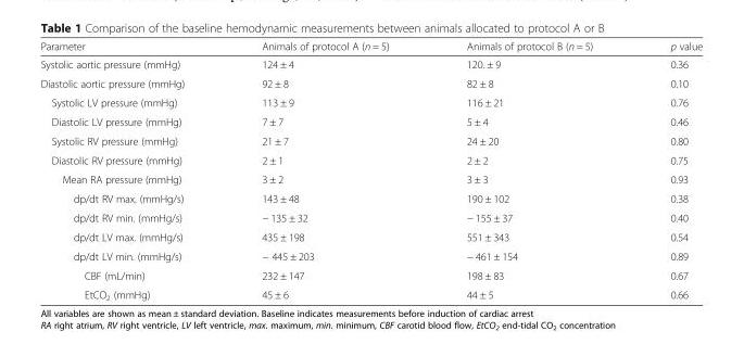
<table><thead><tr><td>Parameter</td><td>Animals of protocol A (n = 5)</td><td>Animals of protocol B (n = 5)</td><td>p value</td></tr></thead><tbody><tr><td>Systolic aortic pressure (mmHg)</td><td>124 ± 4</td><td>120. ± 9</td><td>0.36</td></tr><tr><td>Diastolic aortic pressure (mmHg)</td><td>92 ± 8</td><td>82 ± 8</td><td>0.10</td></tr><tr><td>Systolic LV pressure (mmHg)</td><td>113 ± 9</td><td>116 ± 21</td><td>0.76</td></tr><tr><td>Diastolic LV pressure (mmHg)</td><td>7 ± 7</td><td>5 ± 4</td><td>0.46</td></tr><tr><td>Systolic RV pressure (mmHg)</td><td>21 ± 7</td><td>24 ± 20</td><td>0.80</td></tr><tr><td>Diastolic RV pressure (mmHg)</td><td>2 ± 1</td><td>2 ± 2</td><td>0.75</td></tr><tr><td>Mean RA pressure (mmHg)</td><td>3 ± 2</td><td>3 ± 3</td><td>0.93</td></tr><tr><td>dp/dt RV max. (mmHg/s)</td><td>143 ± 48</td><td>190 ± 102</td><td>0.38</td></tr><tr><td>dp/dt RV min. (mmHg/s)</td><td>− 135 ± 32</td><td>− 155 ± 37</td><td>0.40</td></tr><tr><td>dp/dt LV max. (mmHg/s)</td><td>435 ± 198</td><td>551 ± 343</td><td>0.54</td></tr><tr><td>dp/dt LV min. (mmHg/s)</td><td>− 445 ± 203</td><td>− 461 ± 154</td><td>0.89</td></tr><tr><td>CBF (mL/min)</td><td>232 ± 147</td><td>198 ± 83</td><td>0.67</td></tr><tr><td>EtCO<sub>2</sub> (mmHg)</td><td>45 ± 6</td><td>44 ± 5</td><td>0.66</td></tr></tbody></table>